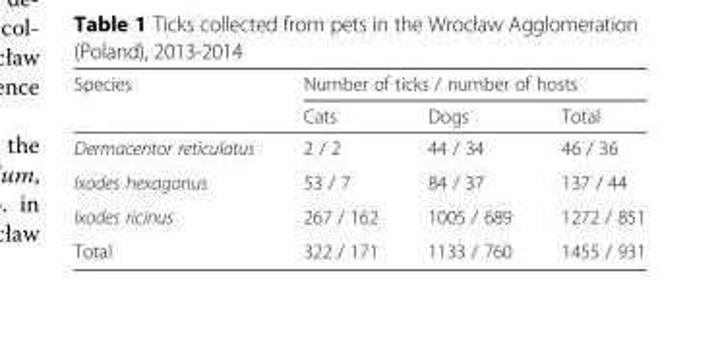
<table><thead><tr><td rowspan="2">Species</td><td colspan="3">Number of ticks / number of hosts</td></tr><tr><td>Cats</td><td>Dogs</td><td>Total</td></tr></thead><tbody><tr><td>Dermacentor reticulatus</td><td>2 / 2</td><td>44 / 34</td><td>46 / 36</td></tr><tr><td>Ixodes hexagonus</td><td>53 / 7</td><td>84 / 37</td><td>137 / 44</td></tr><tr><td>Ixodes ricinus</td><td>267 / 162</td><td>1005 / 689</td><td>1272 / 851</td></tr><tr><td>Total</td><td>322 / 171</td><td>1133 / 760</td><td>1455 / 931</td></tr></tbody></table>